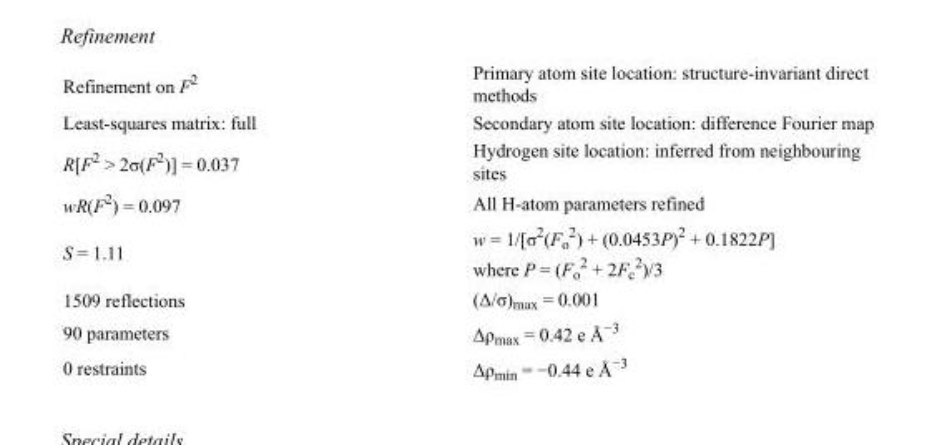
<table><tbody><tr><td>Refinement on F<sup>2</sup></td><td>Primary atom site location: structure-invariant direct methods</td></tr><tr><td>Least-squares matrix: full</td><td>Secondary atom site location: difference Fourier map</td></tr><tr><td>R[F<sup>2</sup> &gt; 2σ(F<sup>2</sup>)] = 0.037</td><td>Hydrogen site location: inferred from neighbouring sites</td></tr><tr><td>wR(F<sup>2</sup>) = 0.097</td><td>All H-atom parameters refined</td></tr><tr><td>S = 1.11</td><td>w = 1/[σ<sup>2</sup>(F<sub>o</sub> <sup>2</sup>) + (0.0453P)<sup>2</sup> + 0.1822P] where P = (F<sub>o</sub> <sup>2</sup> + 2F<sub>c</sub> <sup>2</sup>)/3</td></tr><tr><td>1509 reflections</td><td>(Δ/σ)<sub>max</sub> = 0.001</td></tr><tr><td>90 parameters</td><td>Δρ<sub>max</sub> = 0.42 e Å<sup>−3</sup></td></tr><tr><td>0 restraints</td><td>Δρ<sub>min</sub> = −0.44 e Å<sup>−3</sup></td></tr></tbody></table>